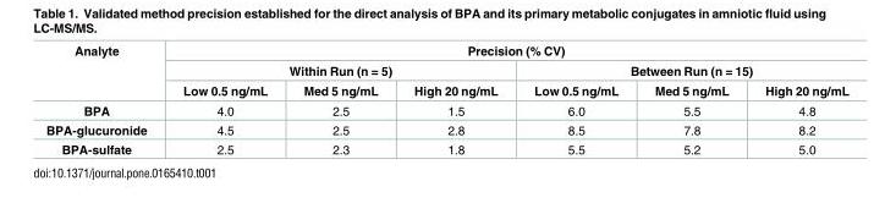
<table><thead><tr><td rowspan="3">Analyte</td><td colspan="6">Precision (% CV)</td></tr><tr><td colspan="3">Within Run (n = 5)</td><td colspan="3">Between Run (n = 15)</td></tr><tr><td>Low 0.5 ng/mL</td><td>Med 5 ng/mL</td><td>High 20 ng/mL</td><td>Low 0.5 ng/mL</td><td>Med 5 ng/mL</td><td>High 20 ng/mL</td></tr></thead><tbody><tr><td>BPA</td><td>4.0</td><td>2.5</td><td>1.5</td><td>6.0</td><td>5.5</td><td>4.8</td></tr><tr><td>BPA-glucuronide</td><td>4.5</td><td>2.5</td><td>2.8</td><td>8.5</td><td>7.8</td><td>8.2</td></tr><tr><td>BPA-sulfate</td><td>2.5</td><td>2.3</td><td>1.8</td><td>5.5</td><td>5.2</td><td>5.0</td></tr></tbody></table>